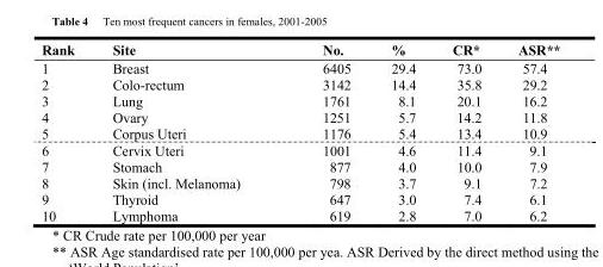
<table><thead><tr><td>Rank</td><td>Site</td><td>No.</td><td>%</td><td>CR*</td><td>ASR**</td></tr></thead><tbody><tr><td>1</td><td>Breast</td><td>6405</td><td>29.4</td><td>73.0</td><td>57.4</td></tr><tr><td>2</td><td>Colo-rectum</td><td>3142</td><td>14.4</td><td>35.8</td><td>29.2</td></tr><tr><td>3</td><td>Lung</td><td>1761</td><td>8.1</td><td>20.1</td><td>16.2</td></tr><tr><td>4</td><td>Ovary</td><td>1251</td><td>5.7</td><td>14.2</td><td>11.8</td></tr><tr><td>5</td><td>Corpus Uteri</td><td>1176</td><td>5.4</td><td>13.4</td><td>10.9</td></tr><tr><td>6</td><td>Cervix Uteri</td><td>1001</td><td>4.6</td><td>11.4</td><td>9.1</td></tr><tr><td>7</td><td>Stomach</td><td>877</td><td>4.0</td><td>10.0</td><td>7.9</td></tr><tr><td>8</td><td>Skin (incl. Melanoma)</td><td>798</td><td>3.7</td><td>9.1</td><td>7.2</td></tr><tr><td>9</td><td>Thyroid</td><td>647</td><td>3.0</td><td>7.4</td><td>6.1</td></tr><tr><td>10</td><td>Lymphoma</td><td>619</td><td>2.8</td><td>7.0</td><td>6.2</td></tr></tbody></table>